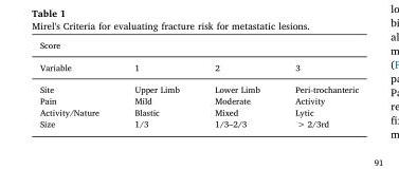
<table><thead><tr><td colspan="4">Score</td></tr><tr><td>Variable</td><td>1</td><td>2</td><td>3</td></tr></thead><tbody><tr><td>Site</td><td>Upper Limb</td><td>Lower Limb</td><td>Peri-trochanteric</td></tr><tr><td>Pain</td><td>Mild</td><td>Moderate</td><td>Activity</td></tr><tr><td>Activity/Nature</td><td>Blastic</td><td>Mixed</td><td>Lytic</td></tr><tr><td>Size</td><td>1/3</td><td>1/3–2/3</td><td>&gt; 2/3rd</td></tr></tbody></table>